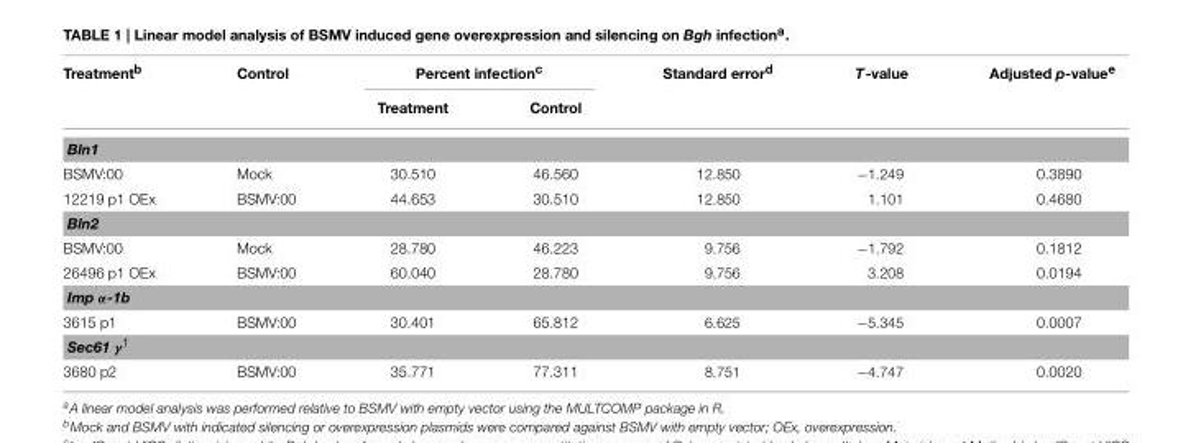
<table><thead><tr><td rowspan="2">Treatment<sup>b</sup></td><td rowspan="2">Control</td><td colspan="2">Percent infection<sup>c</sup></td><td rowspan="2">Standard error<sup>d</sup></td><td rowspan="2">T-value</td><td rowspan="2">Adjusted p-value<sup>e</sup></td></tr><tr><td>Treatment</td><td>Control</td></tr></thead><tbody><tr><td colspan="7">Bln1</td></tr><tr><td>BSMV:00</td><td>Mock</td><td>30.510</td><td>46.560</td><td>12.850</td><td>−1.249</td><td>0.3890</td></tr><tr><td>12219 p1 OEx</td><td>BSMV:00</td><td>44.653</td><td>30.510</td><td>12.850</td><td>1.101</td><td>0.4680</td></tr><tr><td colspan="7">Bln2</td></tr><tr><td>BSMV:00</td><td>Mock</td><td>28.780</td><td>46.223</td><td>9.756</td><td>−1.792</td><td>0.1812</td></tr><tr><td>26496 p1 OEx</td><td>BSMV:00</td><td>60.040</td><td>28.780</td><td>9.756</td><td>3.208</td><td>0.0194</td></tr><tr><td colspan="7">Imp α-1b</td></tr><tr><td>3615 p1</td><td>BSMV:00</td><td>30.401</td><td>65.812</td><td>6.625</td><td>−5.345</td><td>0.0007</td></tr><tr><td colspan="7">Sec61 γ <sup>f</sup></td></tr><tr><td>3680 p2</td><td>BSMV:00</td><td>35.771</td><td>77.311</td><td>8.751</td><td>−4.747</td><td>0.0020</td></tr></tbody></table>